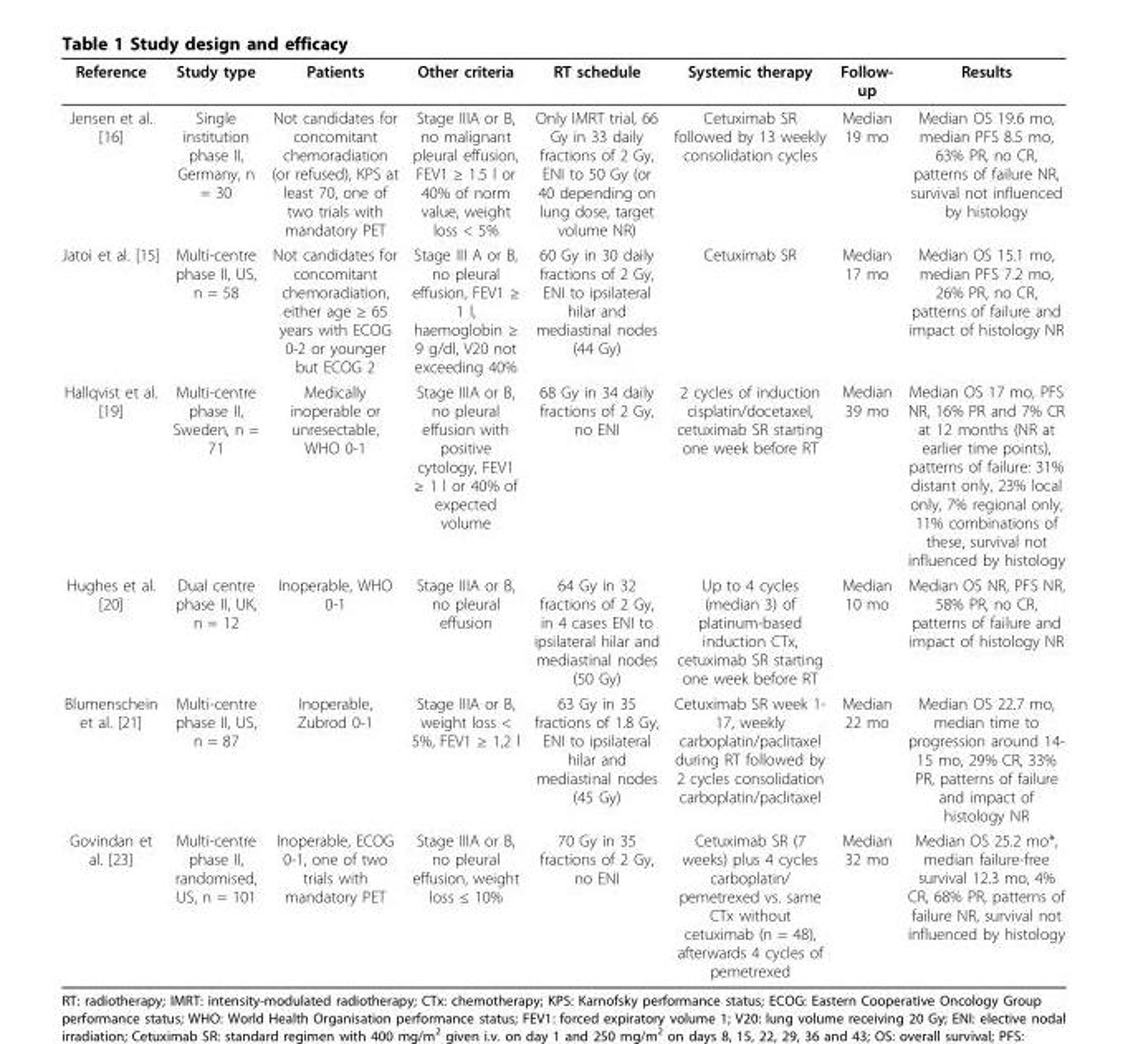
<table><thead><tr><td>Reference</td><td>Study type</td><td>Patients</td><td>Other criteria</td><td>RT schedule</td><td>Systemic therapy</td><td>Follow- up</td><td>Results</td></tr></thead><tbody><tr><td>Jensen et al. [16]</td><td>Single institution phase II, Germany, n = 30</td><td>Not candidates for concomitant chemoradiation (or refused), KPS at least 70, one of two trials with mandatory PET</td><td>Stage IIIA or B, no malignant pleural effusion, FEV1 ≥ 1.5 l or 40% of norm value, weight loss &lt; 5%</td><td>Only IMRT trial, 66 Gy in 33 daily fractions of 2 Gy, ENI to 50 Gy (or 40 depending on lung dose, target volume NR)</td><td>Cetuximab SR followed by 13 weekly consolidation cycles</td><td>Median 19 mo</td><td>Median OS 19.6 mo, median PFS 8.5 mo, 63% PR, no CR, patterns of failure NR, survival not influenced by histology</td></tr><tr><td>Jatoi et al. [15]</td><td>Multi-centre phase II, US, n = 58</td><td>Not candidates for concomitant chemoradiation, either age ≥ 65 years with ECOG 0-2 or younger but ECOG 2</td><td>Stage III A or B, no pleural effusion, FEV1 ≥ 1 l, haemoglobin ≥ 9 g/dl, V20 not exceeding 40%</td><td>60 Gy in 30 daily fractions of 2 Gy, ENI to ipsilateral hilar and mediastinal nodes (44 Gy)</td><td>Cetuximab SR</td><td>Median 17 mo</td><td>Median OS 15.1 mo, median PFS 7.2 mo, 26% PR, no CR, patterns of failure and impact of histology NR</td></tr><tr><td>Hallqvist et al. [19]</td><td>Multi-centre phase II, Sweden, n = 71</td><td>Medically inoperable or unresectable, WHO 0-1</td><td>Stage IIIA or B, no pleural effusion with positive cytology, FEV1 ≥ 1 l or 40% of expected volume</td><td>68 Gy in 34 daily fractions of 2 Gy, no ENI</td><td>2 cycles of induction cisplatin/docetaxel, cetuximab SR starting one week before RT</td><td>Median 39 mo</td><td>Median OS 17 mo, PFS NR, 16% PR and 7% CR at 12 months (NR at earlier time points), patterns of failure: 31% distant only, 23% local only, 7% regional only, 11% combinations of these, survival not influenced by histology</td></tr><tr><td>Hughes et al. [20]</td><td>Dual centre phase II, UK, n = 12</td><td>Inoperable, WHO 0-1</td><td>Stage IIIA or B, no pleural effusion</td><td>64 Gy in 32 fractions of 2 Gy, in 4 cases ENI to ipsilateral hilar and mediastinal nodes (50 Gy)</td><td>Up to 4 cycles (median 3) of platinum-based induction CTx, cetuximab SR starting one week before RT</td><td>Median 10 mo</td><td>Median OS NR, PFS NR, 58% PR, no CR, patterns of failure and impact of histology NR</td></tr><tr><td>Blumenschein et al. [21]</td><td>Multi-centre phase II, US, n = 87</td><td>Inoperable, Zubrod 0-1</td><td>Stage IIIA or B, weight loss &lt; 5%, FEV1 ≥ 1,2 l</td><td>63 Gy in 35 fractions of 1.8 Gy, ENI to ipsilateral hilar and mediastinal nodes (45 Gy)</td><td>Cetuximab SR week 1- 17, weekly carboplatin/paclitaxel during RT followed by 2 cycles consolidation carboplatin/paclitaxel</td><td>Median 22 mo</td><td>Median OS 22.7 mo, median time to progression around 14- 15 mo, 29% CR, 33% PR, patterns of failure and impact of histology NR</td></tr><tr><td>Govindan et al. [23]</td><td>Multi-centre phase II, randomised, US, n = 101</td><td>Inoperable, ECOG 0-1, one of two trials with mandatory PET</td><td>Stage IIIA or B, no pleural effusion, weight loss ≤ 10%</td><td>70 Gy in 35 fractions of 2 Gy, no ENI</td><td>Cetuximab SR (7 weeks) plus 4 cycles carboplatin/ pemetrexed vs. same CTx without cetuximab (n = 48), afterwards 4 cycles of pemetrexed</td><td>Median 32 mo</td><td>Median OS 25.2 mo*, median failure-free survival 12.3 mo, 4% CR, 68% PR, patterns of failure NR, survival not influenced by histology</td></tr></tbody></table>